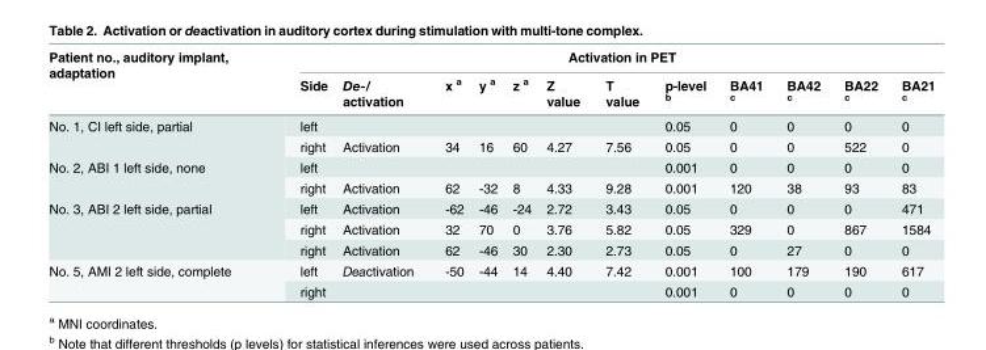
<table><thead><tr><td rowspan="2">Patient no., auditory implant, adaptation</td><td colspan="12">Activation in PET</td></tr><tr><td>Side</td><td>De-/ activation</td><td>x <sup>a</sup></td><td>y <sup>a</sup></td><td>z <sup>a</sup></td><td>Z value</td><td>T value</td><td>p-level <sup>b</sup></td><td>BA41 <sup>c</sup></td><td>BA42 <sup>c</sup></td><td>BA22 <sup>c</sup></td><td>BA21 <sup>c</sup></td></tr></thead><tbody><tr><td rowspan="2">No. 1, CI left side, partial</td><td>left</td><td></td><td></td><td></td><td></td><td></td><td></td><td>0.05</td><td>0</td><td>0</td><td>0</td><td>0</td></tr><tr><td>right</td><td>Activation</td><td>34</td><td>16</td><td>60</td><td>4.27</td><td>7.56</td><td>0.05</td><td>0</td><td>0</td><td>522</td><td>0</td></tr><tr><td rowspan="2">No. 2, ABI 1 left side, none</td><td>left</td><td></td><td></td><td></td><td></td><td></td><td></td><td>0.001</td><td>0</td><td>0</td><td>0</td><td>0</td></tr><tr><td>right</td><td>Activation</td><td>62</td><td>-32</td><td>8</td><td>4.33</td><td>9.28</td><td>0.001</td><td>120</td><td>38</td><td>93</td><td>83</td></tr><tr><td rowspan="3">No. 3, ABI 2 left side, partial</td><td>left</td><td>Activation</td><td>-62</td><td>-46</td><td>-24</td><td>2.72</td><td>3.43</td><td>0.05</td><td>0</td><td>0</td><td>0</td><td>471</td></tr><tr><td>right</td><td>Activation</td><td>32</td><td>70</td><td>0</td><td>3.76</td><td>5.82</td><td>0.05</td><td>329</td><td>0</td><td>867</td><td>1584</td></tr><tr><td>right</td><td>Activation</td><td>62</td><td>-46</td><td>30</td><td>2.30</td><td>2.73</td><td>0.05</td><td>0</td><td>27</td><td>0</td><td>0</td></tr><tr><td rowspan="2">No. 5, AMI 2 left side, complete</td><td>left</td><td>Deactivation</td><td>-50</td><td>-44</td><td>14</td><td>4.40</td><td>7.42</td><td>0.001</td><td>100</td><td>179</td><td>190</td><td>617</td></tr><tr><td>right</td><td></td><td></td><td></td><td></td><td></td><td></td><td>0.001</td><td>0</td><td>0</td><td>0</td><td>0</td></tr></tbody></table>